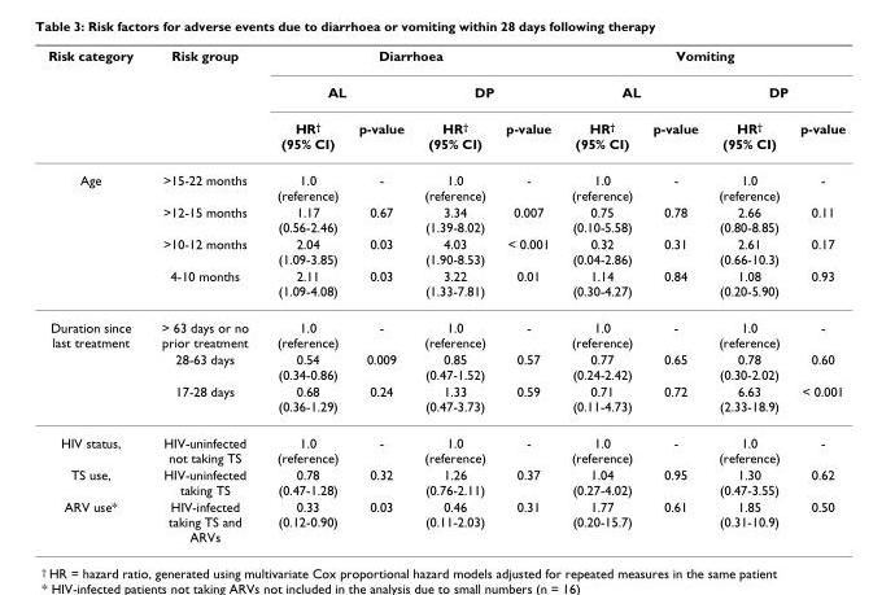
<table><thead><tr><td rowspan="3">Risk category</td><td rowspan="3">Risk group</td><td colspan="4">Diarrhoea</td><td colspan="4">Vomiting</td></tr><tr><td colspan="2">AL</td><td colspan="2">DP</td><td colspan="2">AL</td><td colspan="2">DP</td></tr><tr><td>HR<sup>†</sup> (95% CI)</td><td>p-value</td><td>HR<sup>†</sup> (95% CI)</td><td>p-value</td><td>HR<sup>†</sup> (95% CI)</td><td>p-value</td><td>HR<sup>†</sup> (95% CI)</td><td>p-value</td></tr></thead><tbody><tr><td rowspan="4">Age</td><td>&gt;15-22 months</td><td>1.0 (reference)</td><td>-</td><td>1.0 (reference)</td><td>-</td><td>1.0 (reference)</td><td>-</td><td>1.0 (reference)</td><td>-</td></tr><tr><td>&gt;12-15 months</td><td>1.17 (0.56-2.46)</td><td>0.67</td><td>3.34 (1.39-8.02)</td><td>0.007</td><td>0.75 (0.10-5.58)</td><td>0.78</td><td>2.66 (0.80-8.85)</td><td>0.11</td></tr><tr><td>&gt;10-12 months</td><td>2.04 (1.09-3.85)</td><td>0.03</td><td>4.03 (1.90-8.53)</td><td>&lt; 0.001</td><td>0.32 (0.04-2.86)</td><td>0.31</td><td>2.61 (0.66-10.3)</td><td>0.17</td></tr><tr><td>4-10 months</td><td>2.11 (1.09-4.08)</td><td>0.03</td><td>3.22 (1.33-7.81)</td><td>0.01</td><td>1.14 (0.30-4.27)</td><td>0.84</td><td>1.08 (0.20-5.90)</td><td>0.93</td></tr><tr><td rowspan="3">Duration since last treatment</td><td>&gt; 63 days or no prior treatment</td><td>1.0 (reference)</td><td>-</td><td>1.0 (reference)</td><td>-</td><td>1.0 (reference)</td><td>-</td><td>1.0 (reference)</td><td>-</td></tr><tr><td>28-63 days</td><td>0.54 (0.34-0.86)</td><td>0.009</td><td>0.85 (0.47-1.52)</td><td>0.57</td><td>0.77 (0.24-2.42)</td><td>0.65</td><td>0.78 (0.30-2.02)</td><td>0.60</td></tr><tr><td>17-28 days</td><td>0.68 (0.36-1.29)</td><td>0.24</td><td>1.33 (0.47-3.73)</td><td>0.59</td><td>0.71 (0.11-4.73)</td><td>0.72</td><td>6.63 (2.33-18.9)</td><td>&lt; 0.001</td></tr><tr><td>HIV status,</td><td>HIV-uninfected not taking TS</td><td>1.0 (reference)</td><td>-</td><td>1.0 (reference)</td><td>-</td><td>1.0 (reference)</td><td>-</td><td>1.0 (reference)</td><td>-</td></tr><tr><td>TS use,</td><td>HIV-uninfected taking TS</td><td>0.78 (0.47-1.28)</td><td>0.32</td><td>1.26 (0.76-2.11)</td><td>0.37</td><td>1.04 (0.27-4.02)</td><td>0.95</td><td>1.30 (0.47-3.55)</td><td>0.62</td></tr><tr><td>ARV use*</td><td>HIV-infected taking TS and ARVs</td><td>0.33 (0.12-0.90)</td><td>0.03</td><td>0.46 (0.11-2.03)</td><td>0.31</td><td>1.77 (0.20-15.7)</td><td>0.61</td><td>1.85 (0.31-10.9)</td><td>0.50</td></tr></tbody></table>